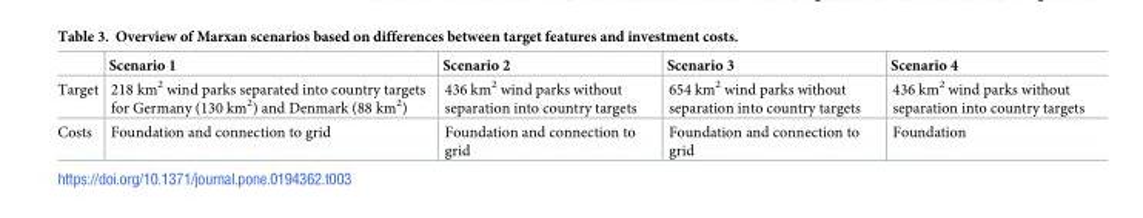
<table><thead><tr><td></td><td>Scenario 1</td><td>Scenario 2</td><td>Scenario 3</td><td>Scenario 4</td></tr></thead><tbody><tr><td>Target</td><td>218 km<sup>2</sup> wind parks separated into country targets for Germany (130 km<sup>2</sup>) and Denmark (88 km<sup>2</sup>)</td><td>436 km<sup>2</sup> wind parks without separation into country targets</td><td>654 km<sup>2</sup> wind parks without separation into country targets</td><td>436 km<sup>2</sup> wind parks without separation into country targets</td></tr><tr><td>Costs</td><td>Foundation and connection to grid</td><td>Foundation and connection to grid</td><td>Foundation and connection to grid</td><td>Foundation</td></tr></tbody></table>